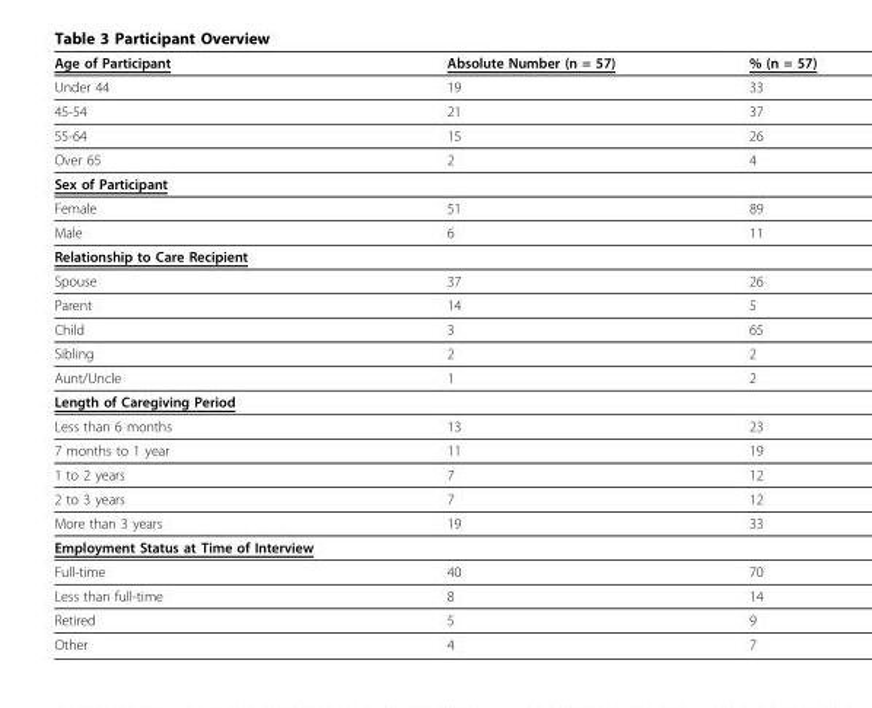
<table><thead><tr><td>Age of Participant</td><td>Absolute Number (n = 57)</td><td>% (n = 57)</td></tr></thead><tbody><tr><td>Under 44</td><td>19</td><td>33</td></tr><tr><td>45-54</td><td>21</td><td>37</td></tr><tr><td>55-64</td><td>15</td><td>26</td></tr><tr><td>Over 65</td><td>2</td><td>4</td></tr><tr><td colspan="3">Sex of Participant</td></tr><tr><td>Female</td><td>51</td><td>89</td></tr><tr><td>Male</td><td>6</td><td>11</td></tr><tr><td colspan="3">Relationship to Care Recipient</td></tr><tr><td>Spouse</td><td>37</td><td>26</td></tr><tr><td>Parent</td><td>14</td><td>5</td></tr><tr><td>Child</td><td>3</td><td>65</td></tr><tr><td>Sibling</td><td>2</td><td>2</td></tr><tr><td>Aunt/Uncle</td><td>1</td><td>2</td></tr><tr><td colspan="3">Length of Caregiving Period</td></tr><tr><td>Less than 6 months</td><td>13</td><td>23</td></tr><tr><td>7 months to 1 year</td><td>11</td><td>19</td></tr><tr><td>1 to 2 years</td><td>7</td><td>12</td></tr><tr><td>2 to 3 years</td><td>7</td><td>12</td></tr><tr><td>More than 3 years</td><td>19</td><td>33</td></tr><tr><td colspan="3">Employment Status at Time of Interview</td></tr><tr><td>Full-time</td><td>40</td><td>70</td></tr><tr><td>Less than full-time</td><td>8</td><td>14</td></tr><tr><td>Retired</td><td>5</td><td>9</td></tr><tr><td>Other</td><td>4</td><td>7</td></tr></tbody></table>